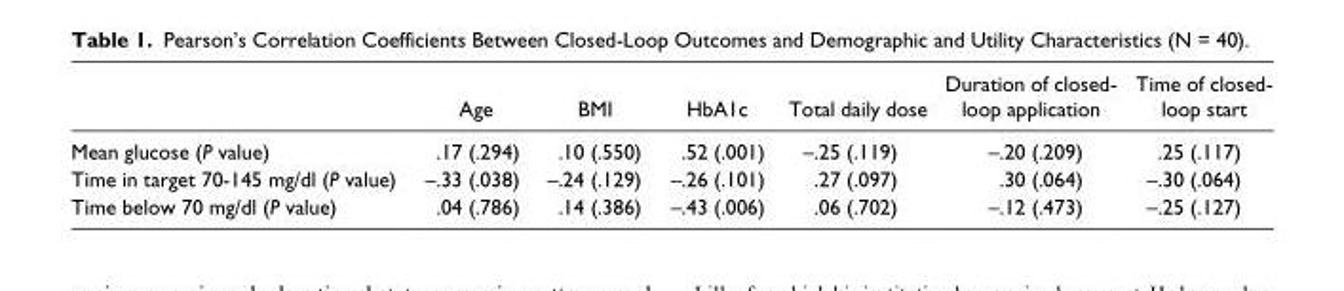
<table><thead><tr><td></td><td>Age</td><td>BMI</td><td>HbA1c</td><td>Total daily dose</td><td>Duration of closed- loop application</td><td>Time of closed- loop start</td></tr></thead><tbody><tr><td>Mean glucose (P value)</td><td>.17 (.294)</td><td>.10 (.550)</td><td>.52 (.001)</td><td>–.25 (.119)</td><td>–.20 (.209)</td><td>.25 (.117)</td></tr><tr><td>Time in target 70-145 mg/dl (P value)</td><td>–.33 (.038)</td><td>–.24 (.129)</td><td>–.26 (.101)</td><td>.27 (.097)</td><td>.30 (.064)</td><td>–.30 (.064)</td></tr><tr><td>Time below 70 mg/dl (P value)</td><td>.04 (.786)</td><td>.14 (.386)</td><td>–.43 (.006)</td><td>.06 (.702)</td><td>–.12 (.473)</td><td>–.25 (.127)</td></tr></tbody></table>